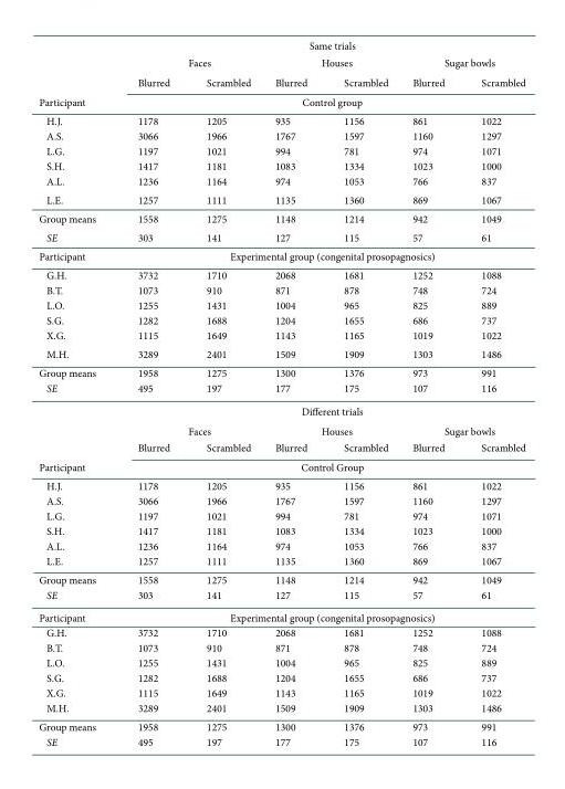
<table><thead><tr><td rowspan="3"></td><td colspan="6">Same trials</td></tr><tr><td colspan="2">Faces</td><td colspan="2">Houses</td><td colspan="2">Sugar bowls</td></tr><tr><td>Blurred</td><td>Scrambled</td><td>Blurred</td><td>Scrambled</td><td>Blurred</td><td>Scrambled</td></tr></thead><tbody><tr><td>Participant</td><td colspan="6">Control group</td></tr><tr><td>H.J.</td><td>1178</td><td>1205</td><td>935</td><td>1156</td><td>861</td><td>1022</td></tr><tr><td>A.S.</td><td>3066</td><td>1966</td><td>1767</td><td>1597</td><td>1160</td><td>1297</td></tr><tr><td>L.G.</td><td>1197</td><td>1021</td><td>994</td><td>781</td><td>974</td><td>1071</td></tr><tr><td>S.H.</td><td>1417</td><td>1181</td><td>1083</td><td>1334</td><td>1023</td><td>1000</td></tr><tr><td>A.L.</td><td>1236</td><td>1164</td><td>974</td><td>1053</td><td>766</td><td>837</td></tr><tr><td>L.E.</td><td>1257</td><td>1111</td><td>1135</td><td>1360</td><td>869</td><td>1067</td></tr><tr><td>Group means</td><td>1558</td><td>1275</td><td>1148</td><td>1214</td><td>942</td><td>1049</td></tr><tr><td>SE</td><td>303</td><td>141</td><td>127</td><td>115</td><td>57</td><td>61</td></tr><tr><td>Participant</td><td colspan="6">Experimental group (congenital prosopagnosics)</td></tr><tr><td>G.H.</td><td>3732</td><td>1710</td><td>2068</td><td>1681</td><td>1252</td><td>1088</td></tr><tr><td>B.T.</td><td>1073</td><td>910</td><td>871</td><td>878</td><td>748</td><td>724</td></tr><tr><td>L.O.</td><td>1255</td><td>1431</td><td>1004</td><td>965</td><td>825</td><td>889</td></tr><tr><td>S.G.</td><td>1282</td><td>1688</td><td>1204</td><td>1655</td><td>686</td><td>737</td></tr><tr><td>X.G.</td><td>1115</td><td>1649</td><td>1143</td><td>1165</td><td>1019</td><td>1022</td></tr><tr><td>M.H.</td><td>3289</td><td>2401</td><td>1509</td><td>1909</td><td>1303</td><td>1486</td></tr><tr><td>Group means</td><td>1958</td><td>1275</td><td>1300</td><td>1376</td><td>973</td><td>991</td></tr><tr><td rowspan="4">SE</td><td>495</td><td>197</td><td>177</td><td>175</td><td>107</td><td>116</td></tr><tr><td colspan="6">Different trials</td></tr><tr><td colspan="2">Faces</td><td colspan="2">Houses</td><td colspan="2">Sugar bowls</td></tr><tr><td>Blurred</td><td>Scrambled</td><td>Blurred</td><td>Scrambled</td><td>Blurred</td><td>Scrambled</td></tr><tr><td>Participant</td><td colspan="6">Control Group</td></tr><tr><td>H.J.</td><td>1178</td><td>1205</td><td>935</td><td>1156</td><td>861</td><td>1022</td></tr><tr><td>A.S.</td><td>3066</td><td>1966</td><td>1767</td><td>1597</td><td>1160</td><td>1297</td></tr><tr><td>L.G.</td><td>1197</td><td>1021</td><td>994</td><td>781</td><td>974</td><td>1071</td></tr><tr><td>S.H.</td><td>1417</td><td>1181</td><td>1083</td><td>1334</td><td>1023</td><td>1000</td></tr><tr><td>A.L.</td><td>1236</td><td>1164</td><td>974</td><td>1053</td><td>766</td><td>837</td></tr><tr><td>L.E.</td><td>1257</td><td>1111</td><td>1135</td><td>1360</td><td>869</td><td>1067</td></tr><tr><td>Group means</td><td>1558</td><td>1275</td><td>1148</td><td>1214</td><td>942</td><td>1049</td></tr><tr><td>SE</td><td>303</td><td>141</td><td>127</td><td>115</td><td>57</td><td>61</td></tr><tr><td>Participant</td><td colspan="6">Experimental group (congenital prosopagnosics)</td></tr><tr><td>G.H.</td><td>3732</td><td>1710</td><td>2068</td><td>1681</td><td>1252</td><td>1088</td></tr><tr><td>B.T.</td><td>1073</td><td>910</td><td>871</td><td>878</td><td>748</td><td>724</td></tr><tr><td>L.O.</td><td>1255</td><td>1431</td><td>1004</td><td>965</td><td>825</td><td>889</td></tr><tr><td>S.G.</td><td>1282</td><td>1688</td><td>1204</td><td>1655</td><td>686</td><td>737</td></tr><tr><td>X.G.</td><td>1115</td><td>1649</td><td>1143</td><td>1165</td><td>1019</td><td>1022</td></tr><tr><td>M.H.</td><td>3289</td><td>2401</td><td>1509</td><td>1909</td><td>1303</td><td>1486</td></tr><tr><td>Group means</td><td>1958</td><td>1275</td><td>1300</td><td>1376</td><td>973</td><td>991</td></tr><tr><td>SE</td><td>495</td><td>197</td><td>177</td><td>175</td><td>107</td><td>116</td></tr></tbody></table>